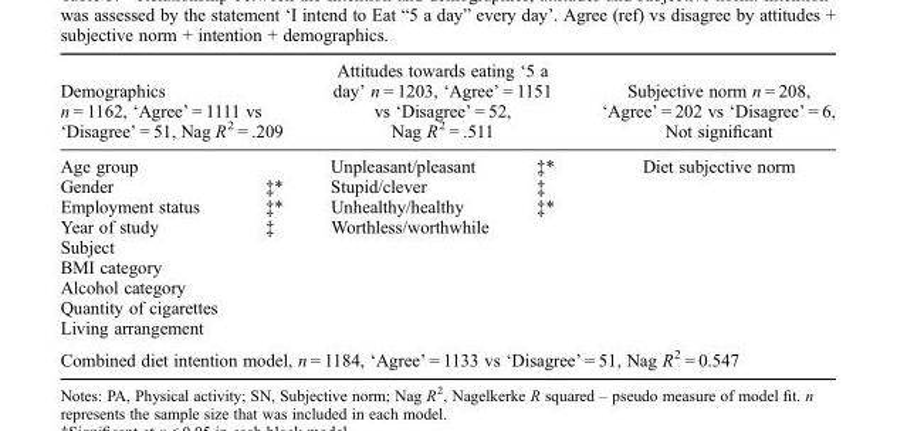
<table><thead><tr><td colspan="2">Demographics n = 1162, ‘Agree’ = 1111 vs ‘Disagree’ = 51, Nag R<sup>2</sup> = .209</td><td colspan="2">Attitudes towards eating ‘5 a day’ n = 1203, ‘Agree’ = 1151 vs ‘Disagree’ = 52, Nag R<sup>2</sup> = .511</td><td rowspan="2">Subjective norm n = 208, ‘Agree’ = 202 vs ‘Disagree’ = 6, Not significant Diet subjective norm</td></tr><tr><td>Age group</td><td></td><td>Unpleasant/pleasant</td><td>‡*</td></tr></thead><tbody><tr><td>Gender</td><td>‡*</td><td>Stupid/clever</td><td>‡</td><td></td></tr><tr><td>Employment status</td><td>‡*</td><td>Unhealthy/healthy</td><td>‡*</td><td></td></tr><tr><td>Year of study</td><td>‡</td><td>Worthless/worthwhile</td><td></td><td></td></tr><tr><td colspan="5">Subject</td></tr><tr><td colspan="5">BMI category</td></tr><tr><td colspan="5">Alcohol category</td></tr><tr><td colspan="5">Quantity of cigarettes</td></tr><tr><td colspan="5">Living arrangement</td></tr><tr><td colspan="5">Combined diet intention model, n = 1184, ‘Agree’ = 1133 vs ‘Disagree’ = 51, Nag R<sup>2</sup> = 0.547</td></tr></tbody></table>